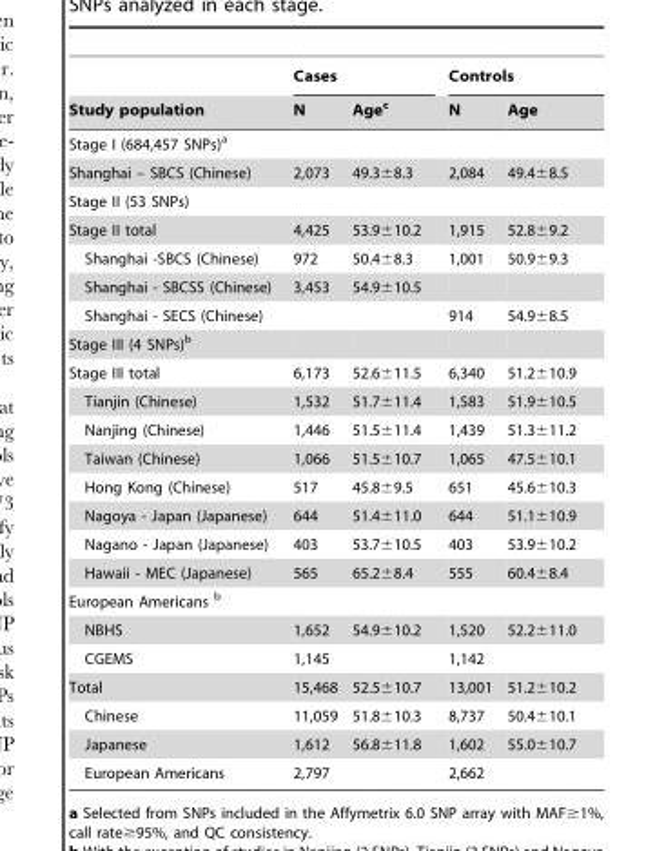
<table><thead><tr><td rowspan="2">Study population</td><td colspan="2">Cases</td><td colspan="2">Controls</td></tr><tr><td>N</td><td>Age<sup>c</sup></td><td>N</td><td>Age</td></tr></thead><tbody><tr><td colspan="5">Stage I (684,457 SNPs)<sup>a</sup></td></tr><tr><td>Shanghai – SBCS (Chinese)</td><td>2,073</td><td>49.3±8.3</td><td>2,084</td><td>49.4±8.5</td></tr><tr><td colspan="5">Stage II (53 SNPs)</td></tr><tr><td>Stage II total</td><td>4,425</td><td>53.9±10.2</td><td>1,915</td><td>52.8±9.2</td></tr><tr><td>Shanghai -SBCS (Chinese)</td><td>972</td><td>50.4±8.3</td><td>1,001</td><td>50.9±9.3</td></tr><tr><td>Shanghai - SBCSS (Chinese)</td><td>3,453</td><td>54.9±10.5</td><td></td><td></td></tr><tr><td>Shanghai - SECS (Chinese)</td><td></td><td></td><td>914</td><td>54.9±8.5</td></tr><tr><td colspan="5">Stage III (4 SNPs)<sup>b</sup></td></tr><tr><td>Stage III total</td><td>6,173</td><td>52.6±11.5</td><td>6,340</td><td>51.2±10.9</td></tr><tr><td>Tianjin (Chinese)</td><td>1,532</td><td>51.7±11.4</td><td>1,583</td><td>51.9±10.5</td></tr><tr><td>Nanjing (Chinese)</td><td>1,446</td><td>51.5±11.4</td><td>1,439</td><td>51.3±11.2</td></tr><tr><td>Taiwan (Chinese)</td><td>1,066</td><td>51.5±10.7</td><td>1,065</td><td>47.5±10.1</td></tr><tr><td>Hong Kong (Chinese)</td><td>517</td><td>45.8±9.5</td><td>651</td><td>45.6±10.3</td></tr><tr><td>Nagoya - Japan (Japanese)</td><td>644</td><td>51.4±11.0</td><td>644</td><td>51.1±10.9</td></tr><tr><td>Nagano - Japan (Japanese)</td><td>403</td><td>53.7±10.5</td><td>403</td><td>53.9±10.2</td></tr><tr><td>Hawaii - MEC (Japanese)</td><td>565</td><td>65.2±8.4</td><td>555</td><td>60.4±8.4</td></tr><tr><td colspan="5">European Americans b</td></tr><tr><td>NBHS</td><td>1,652</td><td>54.9±10.2</td><td>1,520</td><td>52.2±11.0</td></tr><tr><td>CGEMS</td><td>1,145</td><td></td><td>1,142</td><td></td></tr><tr><td>Total</td><td>15,468</td><td>52.5±10.7</td><td>13,001</td><td>51.2±10.2</td></tr><tr><td>Chinese</td><td>11,059</td><td>51.8±10.3</td><td>8,737</td><td>50.4±10.1</td></tr><tr><td>Japanese</td><td>1,612</td><td>56.8±11.8</td><td>1,602</td><td>55.0±10.7</td></tr><tr><td>European Americans</td><td>2,797</td><td></td><td>2,662</td><td></td></tr></tbody></table>